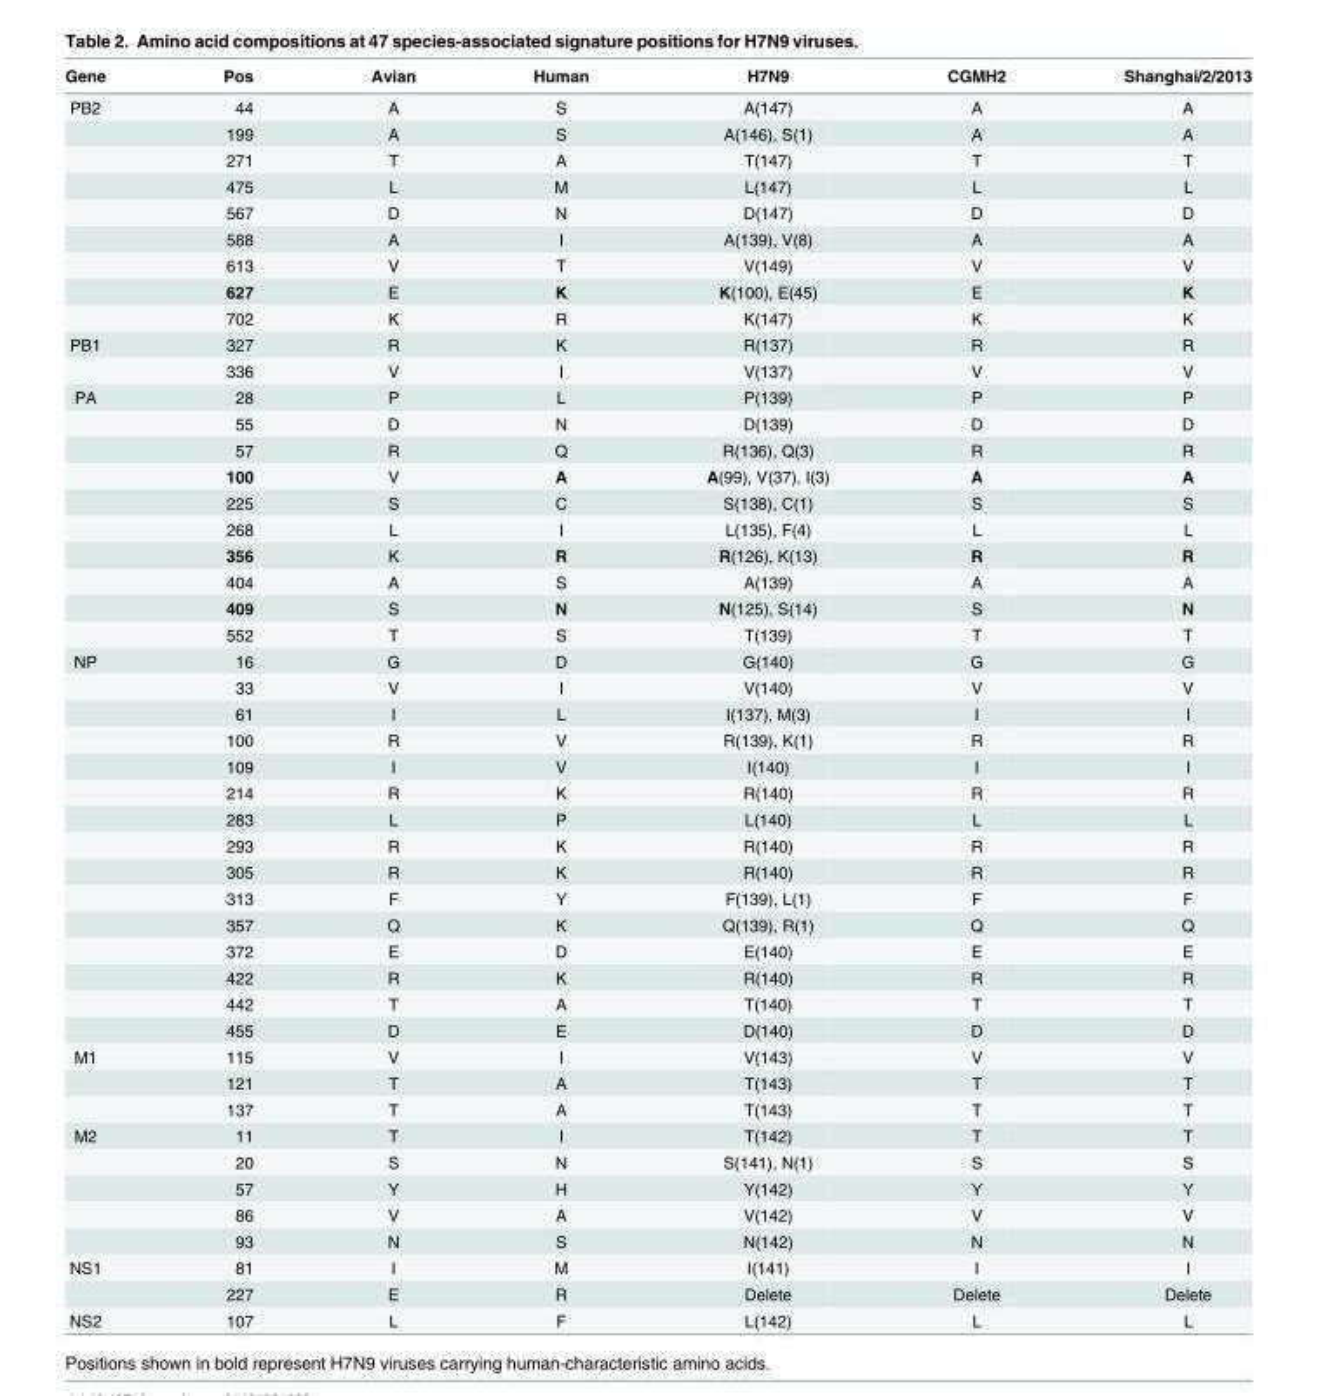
<table><thead><tr><td>Gene</td><td>Pos</td><td>Avian</td><td>Human</td><td>H7N9</td><td>CGMH2</td><td>Shanghai/2/2013</td></tr></thead><tbody><tr><td rowspan="9">PB2</td><td>44</td><td>A</td><td>S</td><td>A(147)</td><td>A</td><td>A</td></tr><tr><td>199</td><td>A</td><td>S</td><td>A(146), S(1)</td><td>A</td><td>A</td></tr><tr><td>271</td><td>T</td><td>A</td><td>T(147)</td><td>T</td><td>T</td></tr><tr><td>475</td><td>L</td><td>M</td><td>L(147)</td><td>L</td><td>L</td></tr><tr><td>567</td><td>D</td><td>N</td><td>D(147)</td><td>D</td><td>D</td></tr><tr><td>588</td><td>A</td><td>I</td><td>A(139), V(8)</td><td>A</td><td>A</td></tr><tr><td>613</td><td>V</td><td>T</td><td>V(149)</td><td>V</td><td>V</td></tr><tr><td>627</td><td>E</td><td>K</td><td>K(100), E(45)</td><td>E</td><td>K</td></tr><tr><td>702</td><td>K</td><td>R</td><td>K(147)</td><td>K</td><td>K</td></tr><tr><td rowspan="2">PB1</td><td>327</td><td>R</td><td>K</td><td>R(137)</td><td>R</td><td>R</td></tr><tr><td>336</td><td>V</td><td>I</td><td>V(137)</td><td>V</td><td>V</td></tr><tr><td rowspan="10">PA</td><td>28</td><td>P</td><td>L</td><td>P(139)</td><td>P</td><td>P</td></tr><tr><td>55</td><td>D</td><td>N</td><td>D(139)</td><td>D</td><td>D</td></tr><tr><td>57</td><td>R</td><td>Q</td><td>R(136), Q(3)</td><td>R</td><td>R</td></tr><tr><td>100</td><td>V</td><td>A</td><td>A(99), V(37), I(3)</td><td>A</td><td>A</td></tr><tr><td>225</td><td>S</td><td>C</td><td>S(138), C(1)</td><td>S</td><td>S</td></tr><tr><td>268</td><td>L</td><td>I</td><td>L(135), F(4)</td><td>L</td><td>L</td></tr><tr><td>356</td><td>K</td><td>R</td><td>R(126), K(13)</td><td>R</td><td>R</td></tr><tr><td>404</td><td>A</td><td>S</td><td>A(139)</td><td>A</td><td>A</td></tr><tr><td>409</td><td>S</td><td>N</td><td>N(125), S(14)</td><td>S</td><td>N</td></tr><tr><td>552</td><td>T</td><td>S</td><td>T(139)</td><td>T</td><td>T</td></tr><tr><td rowspan="15">NP</td><td>16</td><td>G</td><td>D</td><td>G(140)</td><td>G</td><td>G</td></tr><tr><td>33</td><td>V</td><td>I</td><td>V(140)</td><td>V</td><td>V</td></tr><tr><td>61</td><td>I</td><td>L</td><td>I(137), M(3)</td><td>I</td><td>I</td></tr><tr><td>100</td><td>R</td><td>V</td><td>R(139), K(1)</td><td>R</td><td>R</td></tr><tr><td>109</td><td>I</td><td>V</td><td>I(140)</td><td>I</td><td>I</td></tr><tr><td>214</td><td>R</td><td>K</td><td>R(140)</td><td>R</td><td>R</td></tr><tr><td>283</td><td>L</td><td>P</td><td>L(140)</td><td>L</td><td>L</td></tr><tr><td>293</td><td>R</td><td>K</td><td>R(140)</td><td>R</td><td>R</td></tr><tr><td>305</td><td>R</td><td>K</td><td>R(140)</td><td>R</td><td>R</td></tr><tr><td>313</td><td>F</td><td>Y</td><td>F(139), L(1)</td><td>F</td><td>F</td></tr><tr><td>357</td><td>Q</td><td>K</td><td>Q(139), R(1)</td><td>Q</td><td>Q</td></tr><tr><td>372</td><td>E</td><td>D</td><td>E(140)</td><td>E</td><td>E</td></tr><tr><td>422</td><td>R</td><td>K</td><td>R(140)</td><td>R</td><td>R</td></tr><tr><td>442</td><td>T</td><td>A</td><td>T(140)</td><td>T</td><td>T</td></tr><tr><td>455</td><td>D</td><td>E</td><td>D(140)</td><td>D</td><td>D</td></tr><tr><td rowspan="3">M1</td><td>115</td><td>V</td><td>I</td><td>V(143)</td><td>V</td><td>V</td></tr><tr><td>121</td><td>T</td><td>A</td><td>T(143)</td><td>T</td><td>T</td></tr><tr><td>137</td><td>T</td><td>A</td><td>T(143)</td><td>T</td><td>T</td></tr><tr><td rowspan="5">M2</td><td>11</td><td>T</td><td>I</td><td>T(142)</td><td>T</td><td>T</td></tr><tr><td>20</td><td>S</td><td>N</td><td>S(141), N(1)</td><td>S</td><td>S</td></tr><tr><td>57</td><td>Y</td><td>H</td><td>Y(142)</td><td>Y</td><td>Y</td></tr><tr><td>86</td><td>V</td><td>A</td><td>V(142)</td><td>V</td><td>V</td></tr><tr><td>93</td><td>N</td><td>S</td><td>N(142)</td><td>N</td><td>N</td></tr><tr><td rowspan="2">NS1</td><td>81</td><td>I</td><td>M</td><td>I(141)</td><td>I</td><td>I</td></tr><tr><td>227</td><td>E</td><td>R</td><td>Delete</td><td>Delete</td><td>Delete</td></tr><tr><td>NS2</td><td>107</td><td>L</td><td>F</td><td>L(142)</td><td>L</td><td>L</td></tr></tbody></table>